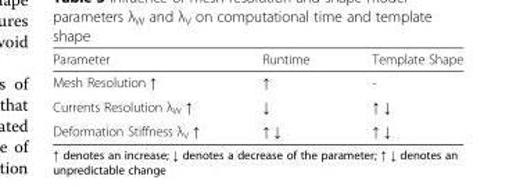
<table><thead><tr><td>Parameter</td><td>Runtime</td><td>Template Shape</td></tr></thead><tbody><tr><td>Mesh Resolution ↑</td><td>↑</td><td>-</td></tr><tr><td>Currents Resolution λ<sub>W</sub> ↑</td><td>↓</td><td>↑ ↓</td></tr><tr><td>Deformation Stiffness λ<sub>V</sub> ↑</td><td>↑ ↓</td><td>↑ ↓</td></tr></tbody></table>